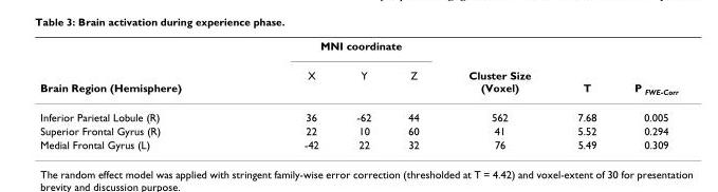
<table><thead><tr><td rowspan="2">Brain Region (Hemisphere)</td><td colspan="3">MNI coordinate</td><td rowspan="2">Cluster Size (Voxel)</td><td rowspan="2">T</td><td rowspan="2">P <sub>FWE-Corr</sub></td></tr><tr><td>X</td><td>Y</td><td>Z</td></tr></thead><tbody><tr><td>Inferior Parietal Lobule (R)</td><td>36</td><td>-62</td><td>44</td><td>562</td><td>7.68</td><td>0.005</td></tr><tr><td>Superior Frontal Gyrus (R)</td><td>22</td><td>10</td><td>60</td><td>41</td><td>5.52</td><td>0.294</td></tr><tr><td>Medial Frontal Gyrus (L)</td><td>-42</td><td>22</td><td>32</td><td>76</td><td>5.49</td><td>0.309</td></tr></tbody></table>